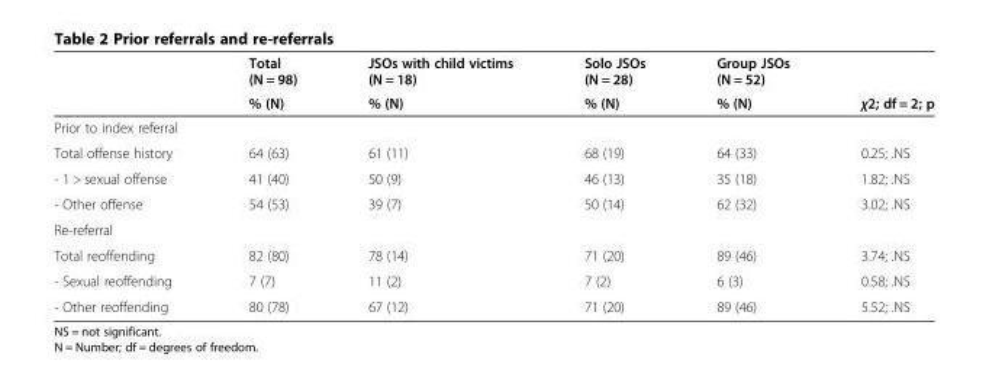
<table><thead><tr><td rowspan="2"></td><td rowspan="2">Total (N = 98) % (N)</td><td rowspan="2">JSOs with child victims (N = 18) % (N)</td><td rowspan="2">Solo JSOs (N = 28) % (N)</td><td rowspan="2">Group JSOs (N = 52) % (N)</td><td rowspan="2">χ2; df = 2; p</td></tr><tr></tr></thead><tbody><tr><td colspan="6">Prior to index referral</td></tr><tr><td>Total offense history</td><td>64 (63)</td><td>61 (11)</td><td>68 (19)</td><td>64 (33)</td><td>0.25; .NS</td></tr><tr><td>- 1 &gt; sexual offense</td><td>41 (40)</td><td>50 (9)</td><td>46 (13)</td><td>35 (18)</td><td>1.82; .NS</td></tr><tr><td>- Other offense</td><td>54 (53)</td><td>39 (7)</td><td>50 (14)</td><td>62 (32)</td><td>3.02; .NS</td></tr><tr><td colspan="6">Re-referral</td></tr><tr><td>Total reoffending</td><td>82 (80)</td><td>78 (14)</td><td>71 (20)</td><td>89 (46)</td><td>3.74; .NS</td></tr><tr><td>- Sexual reoffending</td><td>7 (7)</td><td>11 (2)</td><td>7 (2)</td><td>6 (3)</td><td>0.58; .NS</td></tr><tr><td>- Other reoffending</td><td>80 (78)</td><td>67 (12)</td><td>71 (20)</td><td>89 (46)</td><td>5.52; .NS</td></tr></tbody></table>